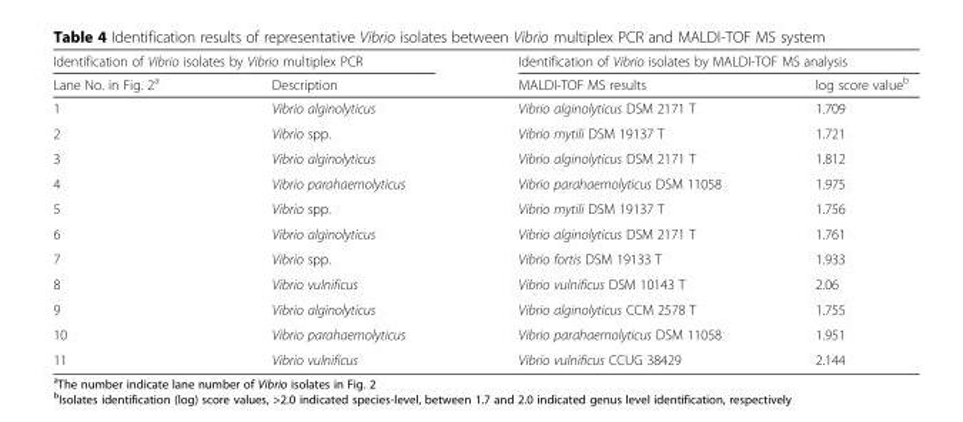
<table><thead><tr><td colspan="2">Identification of Vibrio isolates by Vibrio multiplex PCR</td><td colspan="2">Identification of Vibrio isolates by MALDI-TOF MS analysis</td></tr><tr><td>Lane No. in Fig. 2<sup>a</sup></td><td>Description</td><td>MALDI-TOF MS results</td><td>log score value<sup>b</sup></td></tr></thead><tbody><tr><td>1</td><td>Vibrio alginolyticus</td><td>Vibrio alginolyticus DSM 2171 T</td><td>1.709</td></tr><tr><td>2</td><td>Vibrio spp.</td><td>Vibrio mytili DSM 19137 T</td><td>1.721</td></tr><tr><td>3</td><td>Vibrio alginolyticus</td><td>Vibrio alginolyticus DSM 2171 T</td><td>1.812</td></tr><tr><td>4</td><td>Vibrio parahaemolyticus</td><td>Vibrio parahaemolyticus DSM 11058</td><td>1.975</td></tr><tr><td>5</td><td>Vibrio spp.</td><td>Vibrio mytili DSM 19137 T</td><td>1.756</td></tr><tr><td>6</td><td>Vibrio alginolyticus</td><td>Vibrio alginolyticus DSM 2171 T</td><td>1.761</td></tr><tr><td>7</td><td>Vibrio spp.</td><td>Vibrio fortis DSM 19133 T</td><td>1.933</td></tr><tr><td>8</td><td>Vibrio vulnificus</td><td>Vibrio vulnificus DSM 10143 T</td><td>2.06</td></tr><tr><td>9</td><td>Vibrio alginolyticus</td><td>Vibrio alginolyticus CCM 2578 T</td><td>1.755</td></tr><tr><td>10</td><td>Vibrio parahaemolyticus</td><td>Vibrio parahaemolyticus DSM 11058</td><td>1.951</td></tr><tr><td>11</td><td>Vibrio vulnificus</td><td>Vibrio vulnificus CCUG 38429</td><td>2.144</td></tr></tbody></table>